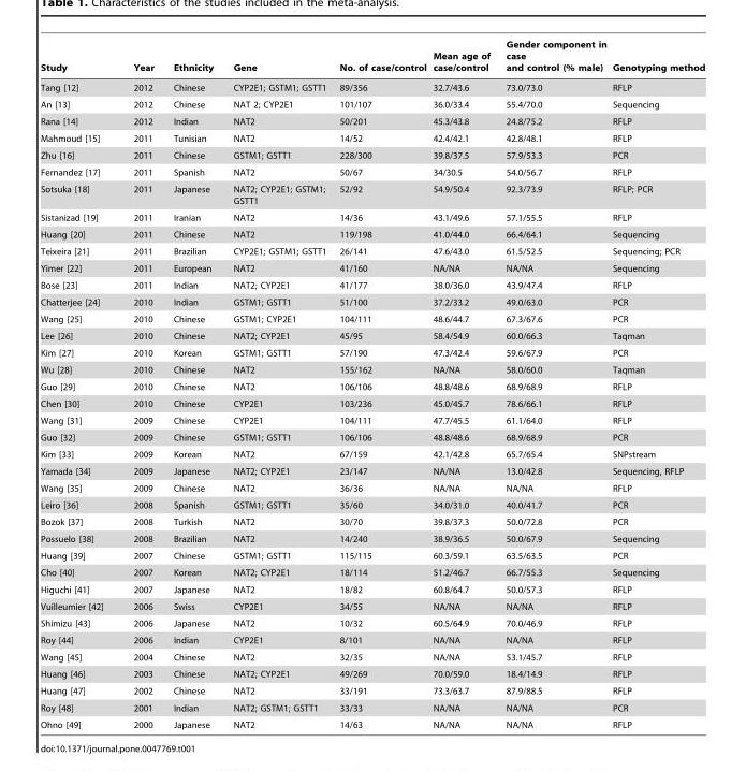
<table><thead><tr><td>Study</td><td>Year</td><td>Ethnicity</td><td>Gene</td><td>No. of case/control</td><td>Mean age of case/control</td><td>Gender component in case and control (% male)</td><td>Genotyping method</td></tr></thead><tbody><tr><td>Tang [12]</td><td>2012</td><td>Chinese</td><td>CYP2E1; GSTM1; GSTT1</td><td>89/356</td><td>32.7/43.6</td><td>73.0/73.0</td><td>RFLP</td></tr><tr><td>An [13]</td><td>2012</td><td>Chinese</td><td>NAT 2; CYP2E1</td><td>101/107</td><td>36.0/33.4</td><td>55.4/70.0</td><td>Sequencing</td></tr><tr><td>Rana [14]</td><td>2012</td><td>Indian</td><td>NAT2</td><td>50/201</td><td>45.3/43.8</td><td>24.8/75.2</td><td>RFLP</td></tr><tr><td>Mahmoud [15]</td><td>2011</td><td>Tunisian</td><td>NAT2</td><td>14/52</td><td>42.4/42.1</td><td>42.8/48.1</td><td>RFLP</td></tr><tr><td>Zhu [16]</td><td>2011</td><td>Chinese</td><td>GSTM1; GSTT1</td><td>228/300</td><td>39.8/37.5</td><td>57.9/53.3</td><td>PCR</td></tr><tr><td>Fernandez [17]</td><td>2011</td><td>Spanish</td><td>NAT2</td><td>50/67</td><td>34/30.5</td><td>54.0/56.7</td><td>RFLP</td></tr><tr><td>Sotsuka [18]</td><td>2011</td><td>Japanese</td><td>NAT2; CYP2E1; GSTM1; GSTT1</td><td>52/92</td><td>54.9/50.4</td><td>92.3/73.9</td><td>RFLP; PCR</td></tr><tr><td>Sistanizad [19]</td><td>2011</td><td>Iranian</td><td>NAT2</td><td>14/36</td><td>43.1/49.6</td><td>57.1/55.5</td><td>RFLP</td></tr><tr><td>Huang [20]</td><td>2011</td><td>Chinese</td><td>NAT2</td><td>119/198</td><td>41.0/44.0</td><td>66.4/64.1</td><td>Sequencing</td></tr><tr><td>Teixeira [21]</td><td>2011</td><td>Brazilian</td><td>CYP2E1; GSTM1; GSTT1</td><td>26/141</td><td>47.6/43.0</td><td>61.5/52.5</td><td>Sequencing; PCR</td></tr><tr><td>Yimer [22]</td><td>2011</td><td>European</td><td>NAT2</td><td>41/160</td><td>NA/NA</td><td>NA/NA</td><td>Sequencing</td></tr><tr><td>Bose [23]</td><td>2011</td><td>Indian</td><td>NAT2; CYP2E1</td><td>41/177</td><td>38.0/36.0</td><td>43.9/47.4</td><td>RFLP</td></tr><tr><td>Chatterjee [24]</td><td>2010</td><td>Indian</td><td>GSTM1; GSTT1</td><td>51/100</td><td>37.2/33.2</td><td>49.0/63.0</td><td>PCR</td></tr><tr><td>Wang [25]</td><td>2010</td><td>Chinese</td><td>GSTM1; CYP2E1</td><td>104/111</td><td>48.6/44.7</td><td>67.3/67.6</td><td>PCR</td></tr><tr><td>Lee [26]</td><td>2010</td><td>Chinese</td><td>NAT2; CYP2E1</td><td>45/95</td><td>58.4/54.9</td><td>60.0/66.3</td><td>Taqman</td></tr><tr><td>Kim [27]</td><td>2010</td><td>Korean</td><td>GSTM1; GSTT1</td><td>57/190</td><td>47.3/42.4</td><td>59.6/67.9</td><td>PCR</td></tr><tr><td>Wu [28]</td><td>2010</td><td>Chinese</td><td>NAT2</td><td>155/162</td><td>NA/NA</td><td>58.0/60.0</td><td>Taqman</td></tr><tr><td>Guo [29]</td><td>2010</td><td>Chinese</td><td>NAT2</td><td>106/106</td><td>48.8/48.6</td><td>68.9/68.9</td><td>RFLP</td></tr><tr><td>Chen [30]</td><td>2010</td><td>Chinese</td><td>CYP2E1</td><td>103/236</td><td>45.0/45.7</td><td>78.6/66.1</td><td>RFLP</td></tr><tr><td>Wang [31]</td><td>2009</td><td>Chinese</td><td>CYP2E1</td><td>104/111</td><td>47.7/45.5</td><td>61.1/64.0</td><td>RFLP</td></tr><tr><td>Guo [32]</td><td>2009</td><td>Chinese</td><td>GSTM1; GSTT1</td><td>106/106</td><td>48.8/48.6</td><td>68.9/68.9</td><td>PCR</td></tr><tr><td>Kim [33]</td><td>2009</td><td>Korean</td><td>NAT2</td><td>67/159</td><td>42.1/42.8</td><td>65.7/65.4</td><td>SNPstream</td></tr><tr><td>Yamada [34]</td><td>2009</td><td>Japanese</td><td>NAT2; CYP2E1</td><td>23/147</td><td>NA/NA</td><td>13.0/42.8</td><td>Sequencing, RFLP</td></tr><tr><td>Wang [35]</td><td>2009</td><td>Chinese</td><td>NAT2</td><td>36/36</td><td>NA/NA</td><td>NA/NA</td><td>RFLP</td></tr><tr><td>Leiro [36]</td><td>2008</td><td>Spanish</td><td>GSTM1; GSTT1</td><td>35/60</td><td>34.0/31.0</td><td>40.0/41.7</td><td>PCR</td></tr><tr><td>Bozok [37]</td><td>2008</td><td>Turkish</td><td>NAT2</td><td>30/70</td><td>39.8/37.3</td><td>50.0/72.8</td><td>PCR</td></tr><tr><td>Possuelo [38]</td><td>2008</td><td>Brazilian</td><td>NAT2</td><td>14/240</td><td>38.9/36.5</td><td>50.0/67.9</td><td>Sequencing</td></tr><tr><td>Huang [39]</td><td>2007</td><td>Chinese</td><td>GSTM1; GSTT1</td><td>115/115</td><td>60.3/59.1</td><td>63.5/63.5</td><td>PCR</td></tr><tr><td>Cho [40]</td><td>2007</td><td>Korean</td><td>NAT2; CYP2E1</td><td>18/114</td><td>51.2/46.7</td><td>66.7/55.3</td><td>Sequencing</td></tr><tr><td>Higuchi [41]</td><td>2007</td><td>Japanese</td><td>NAT2</td><td>18/82</td><td>60.8/64.7</td><td>50.0/57.3</td><td>RFLP</td></tr><tr><td>Vuilleumier [42]</td><td>2006</td><td>Swiss</td><td>CYP2E1</td><td>34/55</td><td>NA/NA</td><td>NA/NA</td><td>RFLP</td></tr><tr><td>Shimizu [43]</td><td>2006</td><td>Japanese</td><td>NAT2</td><td>10/32</td><td>60.5/64.9</td><td>70.0/46.9</td><td>RFLP</td></tr><tr><td>Roy [44]</td><td>2006</td><td>Indian</td><td>CYP2E1</td><td>8/101</td><td>NA/NA</td><td>NA/NA</td><td>RFLP</td></tr><tr><td>Wang [45]</td><td>2004</td><td>Chinese</td><td>NAT2</td><td>32/35</td><td>NA/NA</td><td>53.1/45.7</td><td>RFLP</td></tr><tr><td>Huang [46]</td><td>2003</td><td>Chinese</td><td>NAT2; CYP2E1</td><td>49/269</td><td>70.0/59.0</td><td>18.4/14.9</td><td>RFLP</td></tr><tr><td>Huang [47]</td><td>2002</td><td>Chinese</td><td>NAT2</td><td>33/191</td><td>73.3/63.7</td><td>87.9/88.5</td><td>RFLP</td></tr><tr><td>Roy [48]</td><td>2001</td><td>Indian</td><td>NAT2; GSTM1; GSTT1</td><td>33/33</td><td>NA/NA</td><td>NA/NA</td><td>PCR</td></tr><tr><td>Ohno [49]</td><td>2000</td><td>Japanese</td><td>NAT2</td><td>14/63</td><td>NA/NA</td><td>NA/NA</td><td>RFLP</td></tr></tbody></table>